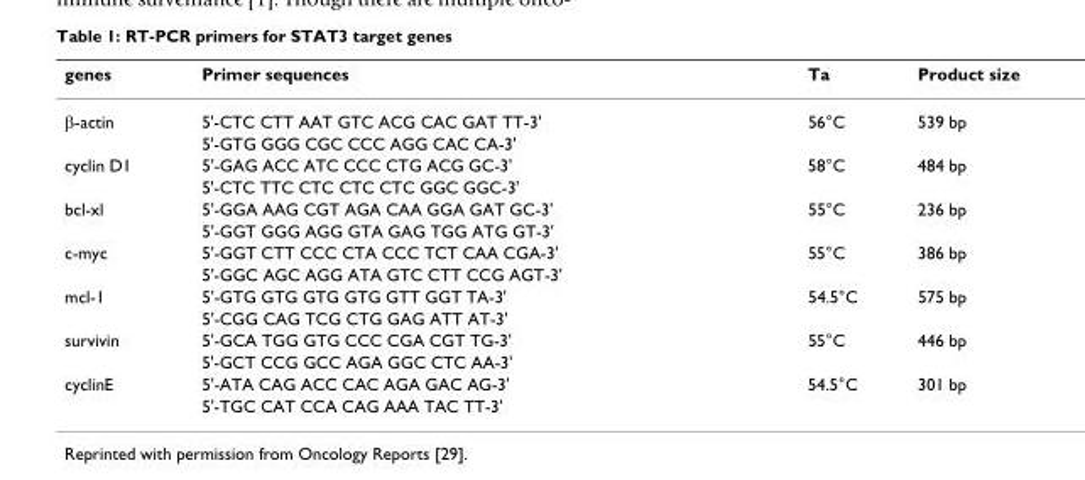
<table><thead><tr><td>genes</td><td>Primer sequences</td><td>Ta</td><td>Product size</td></tr></thead><tbody><tr><td rowspan="2">β-actin</td><td>5&#x27;-CTC CTT AAT GTC ACG CAC GAT TT-3&#x27;</td><td>56°C</td><td>539 bp</td></tr><tr><td>5&#x27;-GTG GGG CGC CCC AGG CAC CA-3&#x27;</td><td></td><td></td></tr><tr><td rowspan="2">cyclin D1</td><td>5&#x27;-GAG ACC ATC CCC CTG ACG GC-3&#x27;</td><td>58°C</td><td>484 bp</td></tr><tr><td>5&#x27;-CTC TTC CTC CTC CTC GGC GGC-3&#x27;</td><td></td><td></td></tr><tr><td rowspan="2">bcl-xl</td><td>5&#x27;-GGA AAG CGT AGA CAA GGA GAT GC-3&#x27;</td><td>55°C</td><td>236 bp</td></tr><tr><td>5&#x27;-GGT GGG AGG GTA GAG TGG ATG GT-3&#x27;</td><td></td><td></td></tr><tr><td rowspan="2">c-myc</td><td>5&#x27;-GGT CTT CCC CTA CCC TCT CAA CGA-3&#x27;</td><td>55°C</td><td>386 bp</td></tr><tr><td>5&#x27;-GGC AGC AGG ATA GTC CTT CCG AGT-3&#x27;</td><td></td><td></td></tr><tr><td rowspan="2">mcl-1</td><td>5&#x27;-GTG GTG GTG GTG GTT GGT TA-3&#x27;</td><td>54.5°C</td><td>575 bp</td></tr><tr><td>5&#x27;-CGG CAG TCG CTG GAG ATT AT-3&#x27;</td><td></td><td></td></tr><tr><td rowspan="2">survivin</td><td>5&#x27;-GCA TGG GTG CCC CGA CGT TG-3&#x27;</td><td>55°C</td><td>446 bp</td></tr><tr><td>5&#x27;-GCT CCG GCC AGA GGC CTC AA-3&#x27;</td><td></td><td></td></tr><tr><td rowspan="2">cyclinE</td><td>5&#x27;-ATA CAG ACC CAC AGA GAC AG-3&#x27;</td><td>54.5°C</td><td>301 bp</td></tr><tr><td>5&#x27;-TGC CAT CCA CAG AAA TAC TT-3&#x27;</td><td></td><td></td></tr></tbody></table>